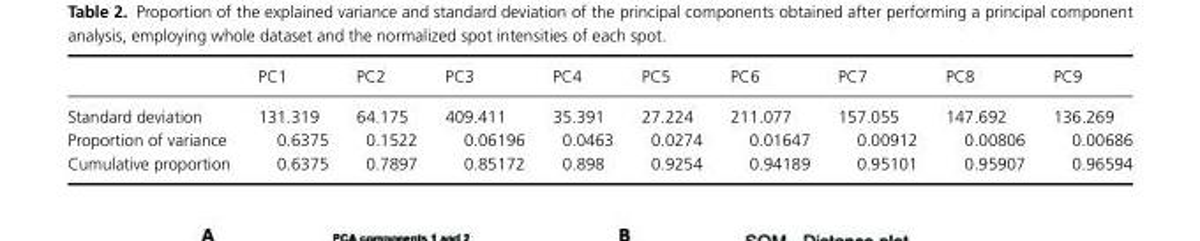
<table><thead><tr><td></td><td>PC1</td><td>PC2</td><td>PC3</td><td>PC4</td><td>PC5</td><td>PC6</td><td>PC7</td><td>PC8</td><td>PC9</td></tr></thead><tbody><tr><td>Standard deviation</td><td>131.319</td><td>64.175</td><td>409.411</td><td>35.391</td><td>27.224</td><td>211.077</td><td>157.055</td><td>147.692</td><td>136.269</td></tr><tr><td>Proportion of variance</td><td>0.6375</td><td>0.1522</td><td>0.06196</td><td>0.0463</td><td>0.0274</td><td>0.01647</td><td>0.00912</td><td>0.00806</td><td>0.00686</td></tr><tr><td>Cumulative proportion</td><td>0.6375</td><td>0.7897</td><td>0.85172</td><td>0.898</td><td>0.9254</td><td>0.94189</td><td>0.95101</td><td>0.95907</td><td>0.96594</td></tr></tbody></table>